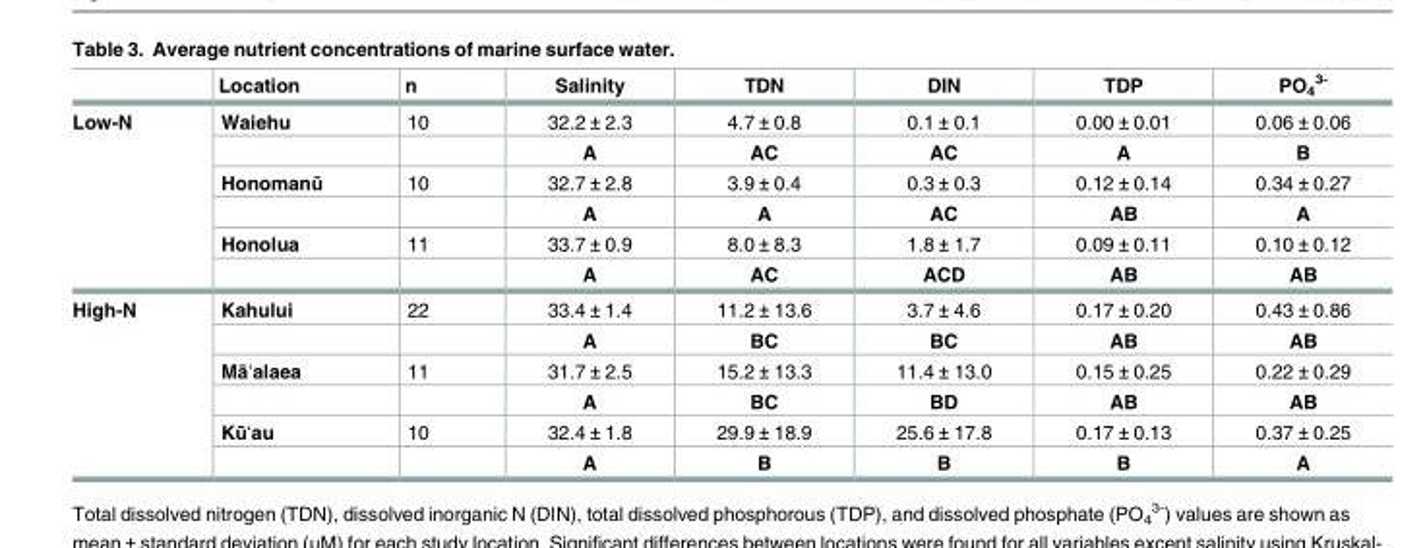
<table><thead><tr><td></td><td>Location</td><td>n</td><td>Salinity</td><td>TDN</td><td>DIN</td><td>TDP</td><td>PO<sub>4</sub> <sup>3-</sup></td></tr></thead><tbody><tr><td rowspan="6">Low-N</td><td>Waiehu</td><td>10</td><td>32.2 ± 2.3</td><td>4.7 ± 0.8</td><td>0.1 ± 0.1</td><td>0.00 ± 0.01</td><td>0.06 ± 0.06</td></tr><tr><td></td><td></td><td>A</td><td>AC</td><td>AC</td><td>A</td><td>B</td></tr><tr><td>Honomanū</td><td>10</td><td>32.7 ± 2.8</td><td>3.9 ± 0.4</td><td>0.3 ± 0.3</td><td>0.12 ± 0.14</td><td>0.34 ± 0.27</td></tr><tr><td></td><td></td><td>A</td><td>A</td><td>AC</td><td>AB</td><td>A</td></tr><tr><td>Honolua</td><td>11</td><td>33.7 ± 0.9</td><td>8.0 ± 8.3</td><td>1.8 ± 1.7</td><td>0.09 ± 0.11</td><td>0.10 ± 0.12</td></tr><tr><td></td><td></td><td>A</td><td>AC</td><td>ACD</td><td>AB</td><td>AB</td></tr><tr><td rowspan="6">High-N</td><td>Kahului</td><td>22</td><td>33.4 ± 1.4</td><td>11.2 ± 13.6</td><td>3.7 ± 4.6</td><td>0.17 ± 0.20</td><td>0.43 ± 0.86</td></tr><tr><td></td><td></td><td>A</td><td>BC</td><td>BC</td><td>AB</td><td>AB</td></tr><tr><td>Māʻalaea</td><td>11</td><td>31.7 ± 2.5</td><td>15.2 ± 13.3</td><td>11.4 ± 13.0</td><td>0.15 ± 0.25</td><td>0.22 ± 0.29</td></tr><tr><td></td><td></td><td>A</td><td>BC</td><td>BD</td><td>AB</td><td>AB</td></tr><tr><td>Kūʻau</td><td>10</td><td>32.4 ± 1.8</td><td>29.9 ± 18.9</td><td>25.6 ± 17.8</td><td>0.17 ± 0.13</td><td>0.37 ± 0.25</td></tr><tr><td></td><td></td><td>A</td><td>B</td><td>B</td><td>B</td><td>A</td></tr></tbody></table>